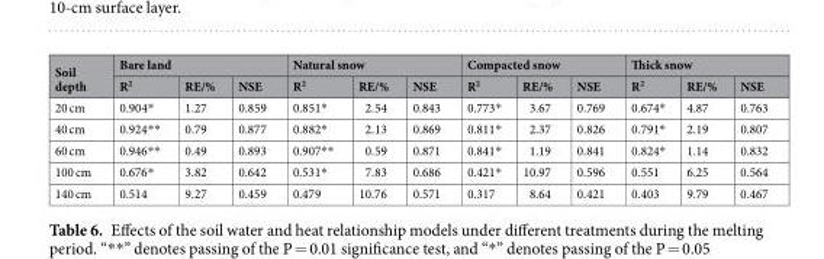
<table><thead><tr><td rowspan="2">Soil depth</td><td colspan="3">Bare land</td><td colspan="3">Natural snow</td><td colspan="3">Compacted snow</td><td colspan="3">Thick snow</td></tr><tr><td>R<sup>2</sup></td><td>RE/%</td><td>NSE</td><td>R<sup>2</sup></td><td>RE/%</td><td>NSE</td><td>R<sup>2</sup></td><td>RE/%</td><td>NSE</td><td>R<sup>2</sup></td><td>RE/%</td><td>NSE</td></tr></thead><tbody><tr><td>20 cm</td><td>0.904*</td><td>1.27</td><td>0.859</td><td>0.851*</td><td>2.54</td><td>0.843</td><td>0.773*</td><td>3.67</td><td>0.769</td><td>0.674*</td><td>4.87</td><td>0.763</td></tr><tr><td>40 cm</td><td>0.924**</td><td>0.79</td><td>0.877</td><td>0.882*</td><td>2.13</td><td>0.869</td><td>0.811*</td><td>2.37</td><td>0.826</td><td>0.791*</td><td>2.19</td><td>0.807</td></tr><tr><td>60 cm</td><td>0.946**</td><td>0.49</td><td>0.893</td><td>0.907**</td><td>0.59</td><td>0.871</td><td>0.841*</td><td>1.19</td><td>0.841</td><td>0.824*</td><td>1.14</td><td>0.832</td></tr><tr><td>100 cm</td><td>0.676*</td><td>3.82</td><td>0.642</td><td>0.531*</td><td>7.83</td><td>0.686</td><td>0.421*</td><td>10.97</td><td>0.596</td><td>0.551</td><td>6.25</td><td>0.564</td></tr><tr><td>140 cm</td><td>0.514</td><td>9.27</td><td>0.459</td><td>0.479</td><td>10.76</td><td>0.571</td><td>0.317</td><td>8.64</td><td>0.421</td><td>0.403</td><td>9.79</td><td>0.467</td></tr></tbody></table>